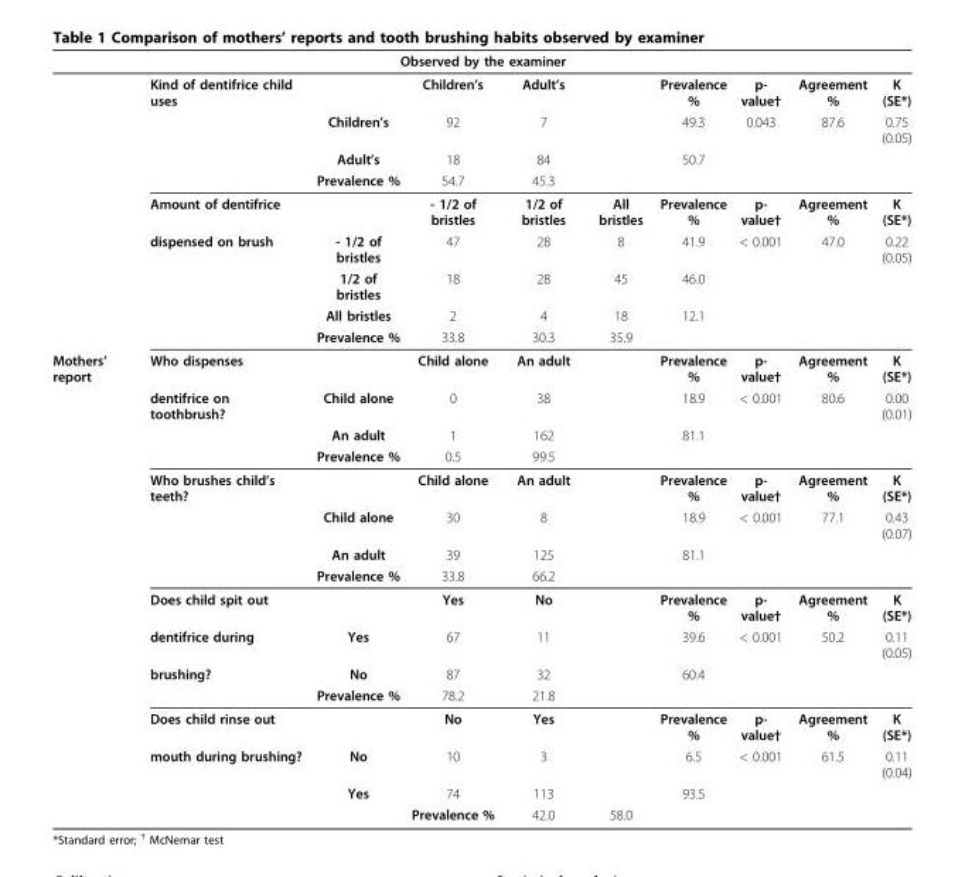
<table><thead><tr><td rowspan="2"></td><td rowspan="2">Kind of dentifrice child uses</td><td colspan="4">Observed by the examiner</td><td rowspan="2">Prevalence %</td><td rowspan="2">p- value†</td><td rowspan="2">Agreement %</td><td rowspan="2">K (SE*)</td></tr><tr><td></td><td>Children’s</td><td>Adult’s</td><td></td></tr></thead><tbody><tr><td></td><td></td><td>Children’s</td><td>92</td><td>7</td><td></td><td>49.3</td><td>0.043</td><td>87.6</td><td>0.75 (0.05)</td></tr><tr><td></td><td></td><td>Adult’s</td><td>18</td><td>84</td><td></td><td>50.7</td><td></td><td></td><td></td></tr><tr><td></td><td></td><td>Prevalence %</td><td>54.7</td><td>45.3</td><td></td><td></td><td></td><td></td><td></td></tr><tr><td></td><td>Amount of dentifrice</td><td></td><td>- 1/2 of bristles</td><td>1/2 of bristles</td><td>All bristles</td><td>Prevalence %</td><td>p- value†</td><td>Agreement %</td><td>K (SE*)</td></tr><tr><td></td><td>dispensed on brush</td><td>- 1/2 of bristles</td><td>47</td><td>28</td><td>8</td><td>41.9</td><td>&lt; 0.001</td><td>47.0</td><td>0.22 (0.05)</td></tr><tr><td></td><td></td><td>1/2 of bristles</td><td>18</td><td>28</td><td>45</td><td>46.0</td><td></td><td></td><td></td></tr><tr><td></td><td></td><td>All bristles</td><td>2</td><td>4</td><td>18</td><td>12.1</td><td></td><td></td><td></td></tr><tr><td></td><td></td><td>Prevalence %</td><td>33.8</td><td>30.3</td><td>35.9</td><td></td><td></td><td></td><td></td></tr><tr><td rowspan="16">Mothers’ report</td><td>Who dispenses</td><td></td><td>Child alone</td><td>An adult</td><td></td><td>Prevalence %</td><td>p- value†</td><td>Agreement %</td><td>K (SE*)</td></tr><tr><td>dentifrice on toothbrush?</td><td>Child alone</td><td>0</td><td>38</td><td></td><td>18.9</td><td>&lt; 0.001</td><td>80.6</td><td>0.00 (0.01)</td></tr><tr><td></td><td>An adult</td><td>1</td><td>162</td><td></td><td>81.1</td><td></td><td></td><td></td></tr><tr><td></td><td>Prevalence %</td><td>0.5</td><td>99.5</td><td></td><td></td><td></td><td></td><td></td></tr><tr><td>Who brushes child’s teeth?</td><td></td><td>Child alone</td><td>An adult</td><td></td><td>Prevalence %</td><td>p- value†</td><td>Agreement %</td><td>K (SE*)</td></tr><tr><td></td><td>Child alone</td><td>30</td><td>8</td><td></td><td>18.9</td><td>&lt; 0.001</td><td>77.1</td><td>0.43 (0.07)</td></tr><tr><td></td><td>An adult</td><td>39</td><td>125</td><td></td><td>81.1</td><td></td><td></td><td></td></tr><tr><td></td><td>Prevalence %</td><td>33.8</td><td>66.2</td><td></td><td></td><td></td><td></td><td></td></tr><tr><td>Does child spit out</td><td></td><td>Yes</td><td>No</td><td></td><td>Prevalence %</td><td>p- value†</td><td>Agreement %</td><td>K (SE*)</td></tr><tr><td>dentifrice during</td><td>Yes</td><td>67</td><td>11</td><td></td><td>39.6</td><td>&lt; 0.001</td><td>50.2</td><td>0.11 (0.05)</td></tr><tr><td>brushing?</td><td>No</td><td>87</td><td>32</td><td></td><td>60.4</td><td></td><td></td><td></td></tr><tr><td></td><td>Prevalence %</td><td>78.2</td><td>21.8</td><td></td><td></td><td></td><td></td><td></td></tr><tr><td>Does child rinse out</td><td></td><td>No</td><td>Yes</td><td></td><td>Prevalence %</td><td>p- value†</td><td>Agreement %</td><td>K (SE*)</td></tr><tr><td>mouth during brushing?</td><td>No</td><td>10</td><td>3</td><td></td><td>6.5</td><td>&lt; 0.001</td><td>61.5</td><td>0.11 (0.04)</td></tr><tr><td></td><td>Yes</td><td>74</td><td>113</td><td></td><td>93.5</td><td></td><td></td><td></td></tr><tr><td></td><td></td><td>Prevalence %</td><td>42.0</td><td>58.0</td><td></td><td></td><td></td><td></td></tr></tbody></table>